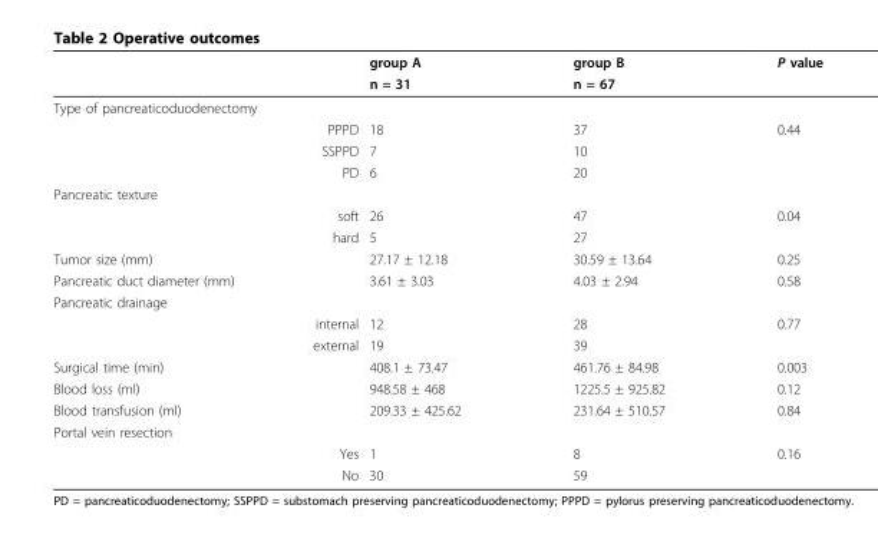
<table><thead><tr><td rowspan="2"></td><td rowspan="2">group A n = 31</td><td rowspan="2">group B n = 67</td><td rowspan="2">P value</td></tr><tr></tr></thead><tbody><tr><td colspan="4">Type of pancreaticoduodenectomy</td></tr><tr><td>PPPD</td><td>18</td><td>37</td><td>0.44</td></tr><tr><td>SSPPD</td><td>7</td><td>10</td><td></td></tr><tr><td>PD</td><td>6</td><td>20</td><td></td></tr><tr><td colspan="4">Pancreatic texture</td></tr><tr><td>soft</td><td>26</td><td>47</td><td>0.04</td></tr><tr><td>hard</td><td>5</td><td>27</td><td></td></tr><tr><td>Tumor size (mm)</td><td>27.17 ± 12.18</td><td>30.59 ± 13.64</td><td>0.25</td></tr><tr><td>Pancreatic duct diameter (mm)</td><td>3.61 ± 3.03</td><td>4.03 ± 2.94</td><td>0.58</td></tr><tr><td colspan="4">Pancreatic drainage</td></tr><tr><td>internal</td><td>12</td><td>28</td><td>0.77</td></tr><tr><td>external</td><td>19</td><td>39</td><td></td></tr><tr><td>Surgical time (min)</td><td>408.1 ± 73.47</td><td>461.76 ± 84.98</td><td>0.003</td></tr><tr><td>Blood loss (ml)</td><td>948.58 ± 468</td><td>1225.5 ± 925.82</td><td>0.12</td></tr><tr><td>Blood transfusion (ml)</td><td>209.33 ± 425.62</td><td>231.64 ± 510.57</td><td>0.84</td></tr><tr><td colspan="4">Portal vein resection</td></tr><tr><td>Yes</td><td>1</td><td>8</td><td>0.16</td></tr><tr><td>No</td><td>30</td><td>59</td><td></td></tr></tbody></table>